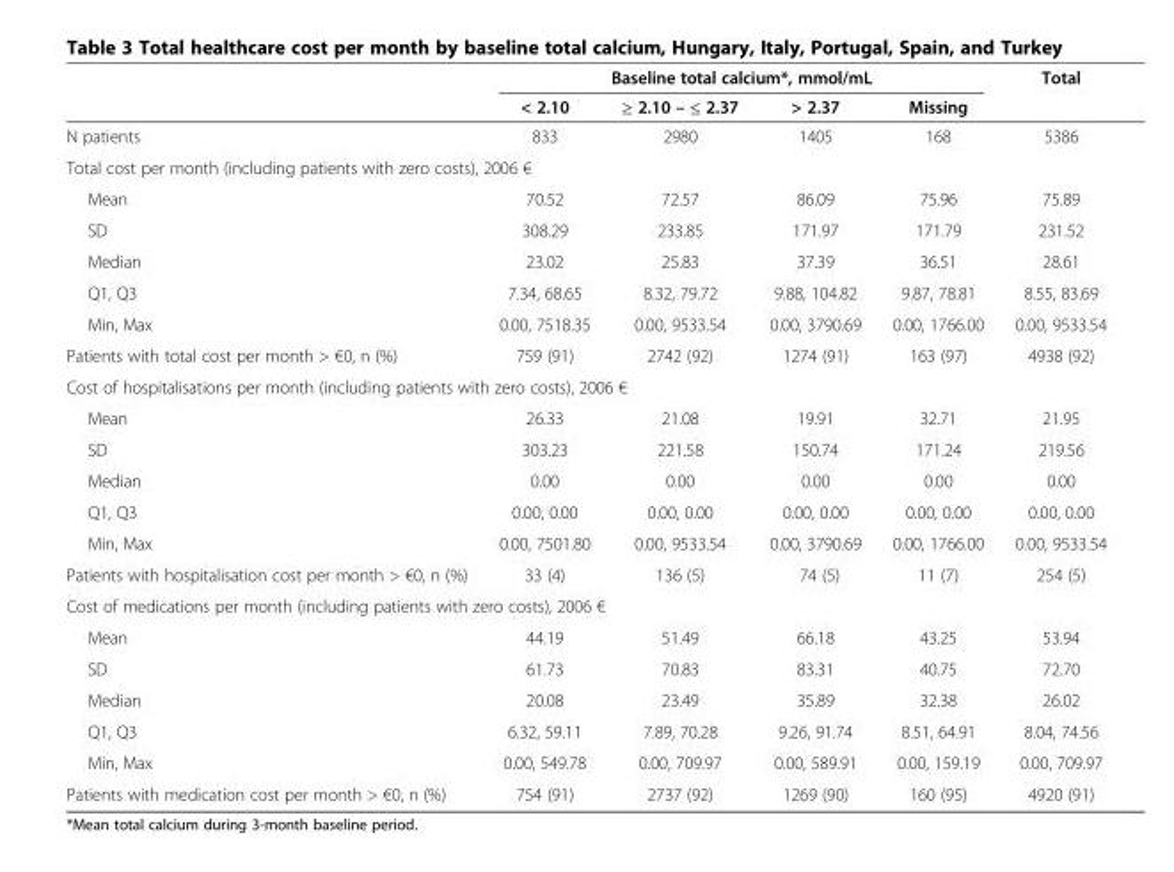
<table><thead><tr><td rowspan="2"></td><td colspan="4">Baseline total calcium*, mmol/mL</td><td rowspan="2">Total</td></tr><tr><td>&lt; 2.10</td><td>≥ 2.10 – ≤ 2.37</td><td>&gt; 2.37</td><td>Missing</td></tr></thead><tbody><tr><td>N patients</td><td>833</td><td>2980</td><td>1405</td><td>168</td><td>5386</td></tr><tr><td colspan="6">Total cost per month (including patients with zero costs), 2006 €</td></tr><tr><td>Mean</td><td>70.52</td><td>72.57</td><td>86.09</td><td>75.96</td><td>75.89</td></tr><tr><td>SD</td><td>308.29</td><td>233.85</td><td>171.97</td><td>171.79</td><td>231.52</td></tr><tr><td>Median</td><td>23.02</td><td>25.83</td><td>37.39</td><td>36.51</td><td>28.61</td></tr><tr><td>Q1, Q3</td><td>7.34, 68.65</td><td>8.32, 79.72</td><td>9.88, 104.82</td><td>9.87, 78.81</td><td>8.55, 83.69</td></tr><tr><td>Min, Max</td><td>0.00, 7518.35</td><td>0.00, 9533.54</td><td>0.00, 3790.69</td><td>0.00, 1766.00</td><td>0.00, 9533.54</td></tr><tr><td>Patients with total cost per month &gt; €0, n (%)</td><td>759 (91)</td><td>2742 (92)</td><td>1274 (91)</td><td>163 (97)</td><td>4938 (92)</td></tr><tr><td colspan="6">Cost of hospitalisations per month (including patients with zero costs), 2006 €</td></tr><tr><td>Mean</td><td>26.33</td><td>21.08</td><td>19.91</td><td>32.71</td><td>21.95</td></tr><tr><td>SD</td><td>303.23</td><td>221.58</td><td>150.74</td><td>171.24</td><td>219.56</td></tr><tr><td>Median</td><td>0.00</td><td>0.00</td><td>0.00</td><td>0.00</td><td>0.00</td></tr><tr><td>Q1, Q3</td><td>0.00, 0.00</td><td>0.00, 0.00</td><td>0.00, 0.00</td><td>0.00, 0.00</td><td>0.00, 0.00</td></tr><tr><td>Min, Max</td><td>0.00, 7501.80</td><td>0.00, 9533.54</td><td>0.00, 3790.69</td><td>0.00, 1766.00</td><td>0.00, 9533.54</td></tr><tr><td>Patients with hospitalisation cost per month &gt; €0, n (%)</td><td>33 (4)</td><td>136 (5)</td><td>74 (5)</td><td>11 (7)</td><td>254 (5)</td></tr><tr><td colspan="6">Cost of medications per month (including patients with zero costs), 2006 €</td></tr><tr><td>Mean</td><td>44.19</td><td>51.49</td><td>66.18</td><td>43.25</td><td>53.94</td></tr><tr><td>SD</td><td>61.73</td><td>70.83</td><td>83.31</td><td>40.75</td><td>72.70</td></tr><tr><td>Median</td><td>20.08</td><td>23.49</td><td>35.89</td><td>32.38</td><td>26.02</td></tr><tr><td>Q1, Q3</td><td>6.32, 59.11</td><td>7.89, 70.28</td><td>9.26, 91.74</td><td>8.51, 64.91</td><td>8.04, 74.56</td></tr><tr><td>Min, Max</td><td>0.00, 549.78</td><td>0.00, 709.97</td><td>0.00, 589.91</td><td>0.00, 159.19</td><td>0.00, 709.97</td></tr><tr><td>Patients with medication cost per month &gt; €0, n (%)</td><td>754 (91)</td><td>2737 (92)</td><td>1269 (90)</td><td>160 (95)</td><td>4920 (91)</td></tr></tbody></table>